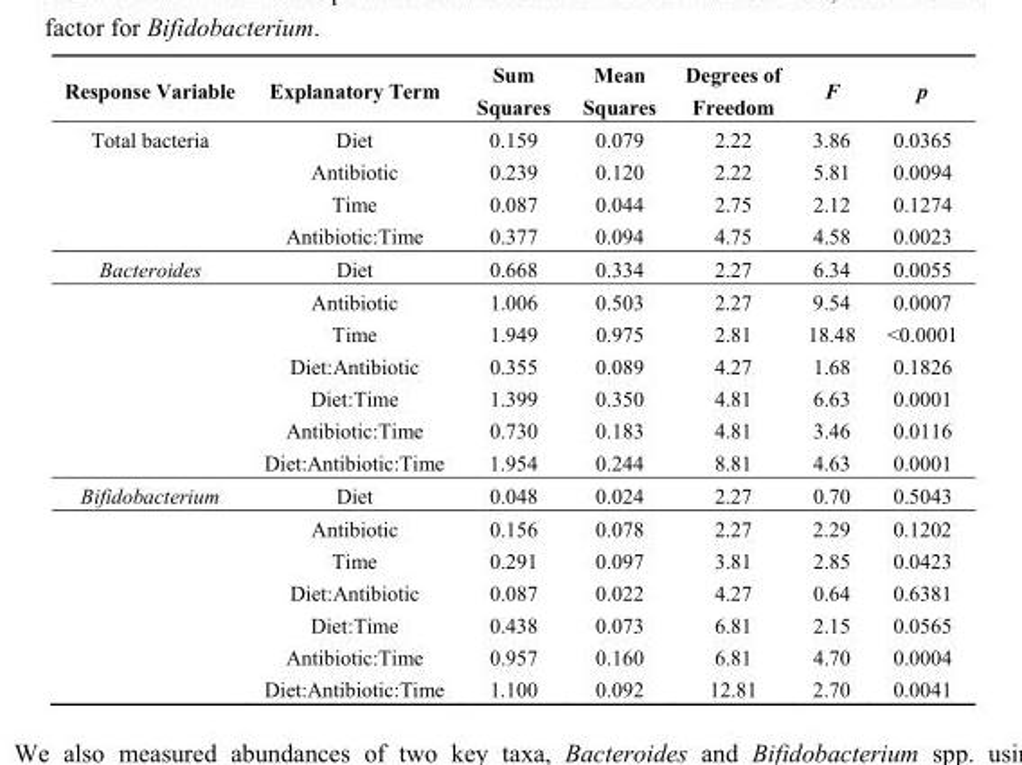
<table><thead><tr><td>Response Variable</td><td>Explanatory Term</td><td>Sum Squares</td><td>Mean Squares</td><td>Degrees of Freedom</td><td>F</td><td>p</td></tr></thead><tbody><tr><td rowspan="4">Total bacteria</td><td>Diet</td><td>0.159</td><td>0.079</td><td>2.22</td><td>3.86</td><td>0.0365</td></tr><tr><td>Antibiotic</td><td>0.239</td><td>0.120</td><td>2.22</td><td>5.81</td><td>0.0094</td></tr><tr><td>Time</td><td>0.087</td><td>0.044</td><td>2.75</td><td>2.12</td><td>0.1274</td></tr><tr><td>Antibiotic:Time</td><td>0.377</td><td>0.094</td><td>4.75</td><td>4.58</td><td>0.0023</td></tr><tr><td rowspan="7">Bacteroides</td><td>Diet</td><td>0.668</td><td>0.334</td><td>2.27</td><td>6.34</td><td>0.0055</td></tr><tr><td>Antibiotic</td><td>1.006</td><td>0.503</td><td>2.27</td><td>9.54</td><td>0.0007</td></tr><tr><td>Time</td><td>1.949</td><td>0.975</td><td>2.81</td><td>18.48</td><td>&lt;0.0001</td></tr><tr><td>Diet:Antibiotic</td><td>0.355</td><td>0.089</td><td>4.27</td><td>1.68</td><td>0.1826</td></tr><tr><td>Diet:Time</td><td>1.399</td><td>0.350</td><td>4.81</td><td>6.63</td><td>0.0001</td></tr><tr><td>Antibiotic:Time</td><td>0.730</td><td>0.183</td><td>4.81</td><td>3.46</td><td>0.0116</td></tr><tr><td>Diet:Antibiotic:Time</td><td>1.954</td><td>0.244</td><td>8.81</td><td>4.63</td><td>0.0001</td></tr><tr><td rowspan="7">Bifidobacterium</td><td>Diet</td><td>0.048</td><td>0.024</td><td>2.27</td><td>0.70</td><td>0.5043</td></tr><tr><td>Antibiotic</td><td>0.156</td><td>0.078</td><td>2.27</td><td>2.29</td><td>0.1202</td></tr><tr><td>Time</td><td>0.291</td><td>0.097</td><td>3.81</td><td>2.85</td><td>0.0423</td></tr><tr><td>Diet:Antibiotic</td><td>0.087</td><td>0.022</td><td>4.27</td><td>0.64</td><td>0.6381</td></tr><tr><td>Diet:Time</td><td>0.438</td><td>0.073</td><td>6.81</td><td>2.15</td><td>0.0565</td></tr><tr><td>Antibiotic:Time</td><td>0.957</td><td>0.160</td><td>6.81</td><td>4.70</td><td>0.0004</td></tr><tr><td>Diet:Antibiotic:Time</td><td>1.100</td><td>0.092</td><td>12.81</td><td>2.70</td><td>0.0041</td></tr></tbody></table>